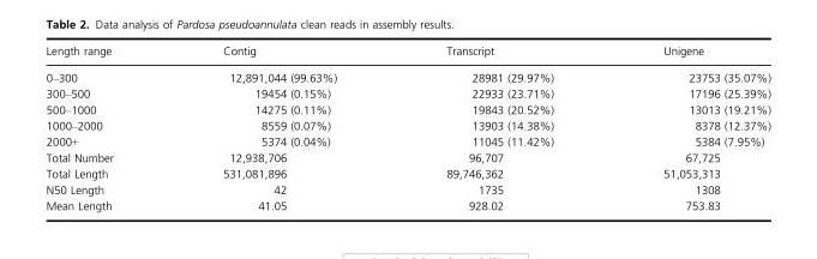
<table><thead><tr><td>Length range</td><td>Contig</td><td>Transcript</td><td>Unigene</td></tr></thead><tbody><tr><td>0–300</td><td>12,891,044 (99.63%)</td><td>28981 (29.97%)</td><td>23753 (35.07%)</td></tr><tr><td>300–500</td><td>19454 (0.15%)</td><td>22933 (23.71%)</td><td>17196 (25.39%)</td></tr><tr><td>500–1000</td><td>14275 (0.11%)</td><td>19843 (20.52%)</td><td>13013 (19.21%)</td></tr><tr><td>1000–2000</td><td>8559 (0.07%)</td><td>13903 (14.38%)</td><td>8378 (12.37%)</td></tr><tr><td>2000+</td><td>5374 (0.04%)</td><td>11045 (11.42%)</td><td>5384 (7.95%)</td></tr><tr><td>Total Number</td><td>12,938,706</td><td>96,707</td><td>67,725</td></tr><tr><td>Total Length</td><td>531,081,896</td><td>89,746,362</td><td>51,053,313</td></tr><tr><td>N50 Length</td><td>42</td><td>1735</td><td>1308</td></tr><tr><td>Mean Length</td><td>41.05</td><td>928.02</td><td>753.83</td></tr></tbody></table>